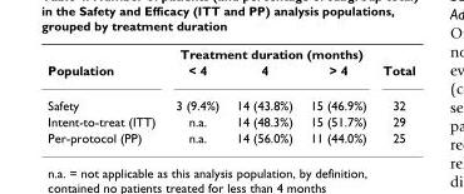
<table><thead><tr><td rowspan="2">Population</td><td colspan="3">Treatment duration (months)</td><td rowspan="2">Total</td></tr><tr><td>&lt; 4</td><td>4</td><td>&gt; 4</td></tr></thead><tbody><tr><td>Safety</td><td>3 (9.4%)</td><td>14 (43.8%)</td><td>15 (46.9%)</td><td>32</td></tr><tr><td>Intent-to-treat (ITT)</td><td>n.a.</td><td>14 (48.3%)</td><td>15 (51.7%)</td><td>29</td></tr><tr><td>Per-protocol (PP)</td><td>n.a.</td><td>14 (56.0%)</td><td>11 (44.0%)</td><td>25</td></tr></tbody></table>